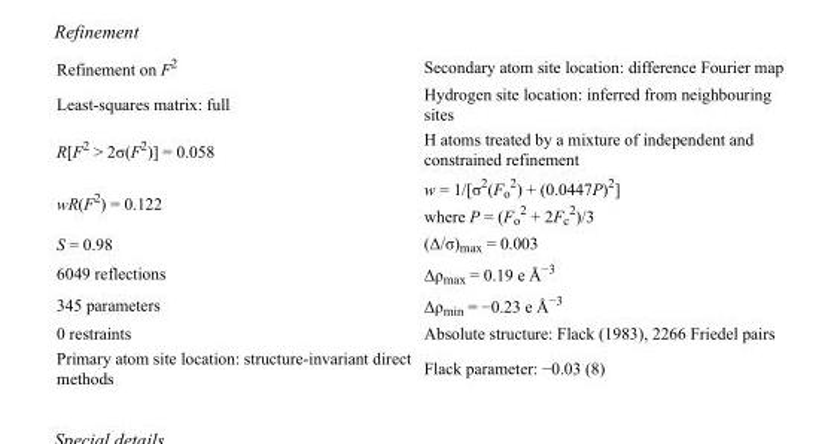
<table><tbody><tr><td>Refinement on F<sup>2</sup></td><td>Secondary atom site location: difference Fourier map</td></tr><tr><td>Least-squares matrix: full</td><td>Hydrogen site location: inferred from neighbouring sites</td></tr><tr><td>R[F<sup>2</sup> &gt; 2σ(F<sup>2</sup>)] = 0.058</td><td>H atoms treated by a mixture of independent and constrained refinement</td></tr><tr><td>wR(F<sup>2</sup>) = 0.122</td><td>w = 1/[σ<sup>2</sup>(F<sub>o</sub> <sup>2</sup>) + (0.0447P)<sup>2</sup>] where P = (F<sub>o</sub> <sup>2</sup> + 2F<sub>c</sub> <sup>2</sup>)/3</td></tr><tr><td>S = 0.98</td><td>(Δ/σ)<sub>max</sub> = 0.003</td></tr><tr><td>6049 reflections</td><td>Δρ<sub>max</sub> = 0.19 e Å<sup>−3</sup></td></tr><tr><td>345 parameters</td><td>Δρ<sub>min</sub> = −0.23 e Å<sup>−3</sup></td></tr><tr><td>0 restraints</td><td>Absolute structure: Flack (1983), 2266 Friedel pairs</td></tr><tr><td>Primary atom site location: structure-invariant direct methods</td><td>Flack parameter: −0.03 (8)</td></tr></tbody></table>